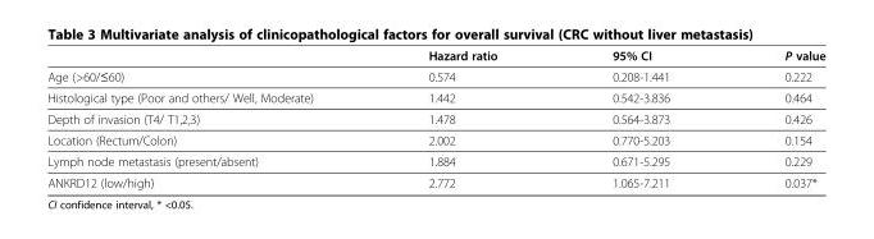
<table><thead><tr><td></td><td>Hazard ratio</td><td>95% CI</td><td>P value</td></tr></thead><tbody><tr><td>Age (&gt;60/≤60)</td><td>0.574</td><td>0.208-1.441</td><td>0.222</td></tr><tr><td>Histological type (Poor and others/ Well, Moderate)</td><td>1.442</td><td>0.542-3.836</td><td>0.464</td></tr><tr><td>Depth of invasion (T4/ T1,2,3)</td><td>1.478</td><td>0.564-3.873</td><td>0.426</td></tr><tr><td>Location (Rectum/Colon)</td><td>2.002</td><td>0.770-5.203</td><td>0.154</td></tr><tr><td>Lymph node metastasis (present/absent)</td><td>1.884</td><td>0.671-5.295</td><td>0.229</td></tr><tr><td>ANKRD12 (low/high)</td><td>2.772</td><td>1.065-7.211</td><td>0.037*</td></tr></tbody></table>